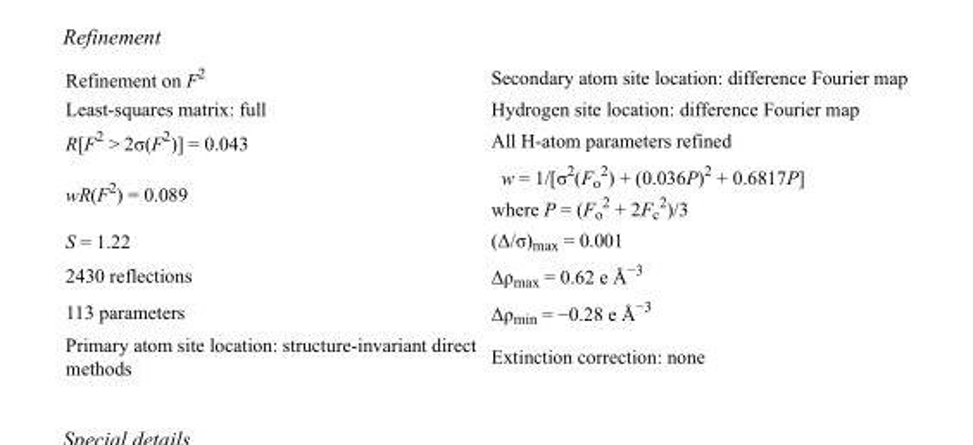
<table><tbody><tr><td>Refinement on F<sup>2</sup></td><td>Secondary atom site location: difference Fourier map</td></tr><tr><td>Least-squares matrix: full</td><td>Hydrogen site location: difference Fourier map</td></tr><tr><td>R[F<sup>2</sup> &gt; 2σ(F<sup>2</sup>)] = 0.043</td><td>All H-atom parameters refined</td></tr><tr><td>wR(F<sup>2</sup>) = 0.089</td><td>w = 1/[σ<sup>2</sup>(F<sub>o</sub> <sup>2</sup>) + (0.036P)<sup>2</sup> + 0.6817P] where P = (F<sub>o</sub> <sup>2</sup> + 2F<sub>c</sub> <sup>2</sup>)/3</td></tr><tr><td>S = 1.22</td><td>(Δ/σ)<sub>max</sub> = 0.001</td></tr><tr><td>2430 reflections</td><td>Δρ<sub>max</sub> = 0.62 e Å<sup>−3</sup></td></tr><tr><td>113 parameters</td><td>Δρ<sub>min</sub> = −0.28 e Å<sup>−3</sup></td></tr><tr><td>Primary atom site location: structure-invariant direct methods</td><td>Extinction correction: none</td></tr></tbody></table>